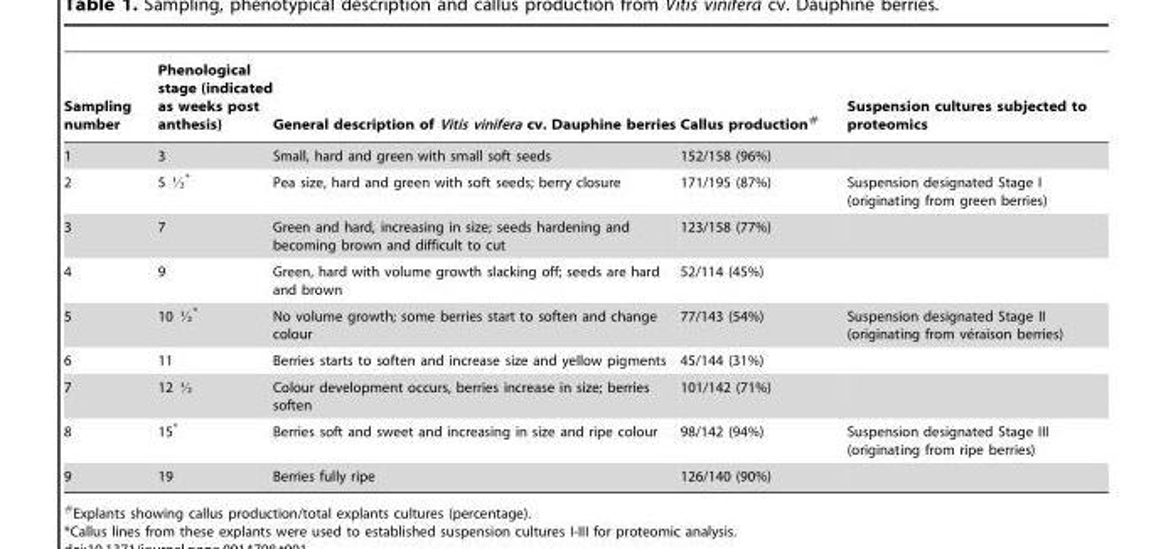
<table><thead><tr><td>Sampling number</td><td>Phenological stage (indicated as weeks post anthesis)</td><td>General description of Vitis vinifera cv. Dauphine berries</td><td>Callus production#</td><td>Suspension cultures subjected to proteomics</td></tr></thead><tbody><tr><td>1</td><td>3</td><td>Small, hard and green with small soft seeds</td><td>152/158 (96%)</td><td></td></tr><tr><td>2</td><td>5 K*</td><td>Pea size, hard and green with soft seeds; berry closure</td><td>171/195 (87%)</td><td>Suspension designated Stage I (originating from green berries)</td></tr><tr><td>3</td><td>7</td><td>Green and hard, increasing in size; seeds hardening and becoming brown and difficult to cut</td><td>123/158 (77%)</td><td></td></tr><tr><td>4</td><td>9</td><td>Green, hard with volume growth slacking off; seeds are hard and brown</td><td>52/114 (45%)</td><td></td></tr><tr><td>5</td><td>10 K*</td><td>No volume growth; some berries start to soften and change colour</td><td>77/143 (54%)</td><td>Suspension designated Stage II (originating from ve´raison berries)</td></tr><tr><td>6</td><td>11</td><td>Berries starts to soften and increase size and yellow pigments</td><td>45/144 (31%)</td><td></td></tr><tr><td>7</td><td>12 K</td><td>Colour development occurs, berries increase in size; berries soften</td><td>101/142 (71%)</td><td></td></tr><tr><td>8</td><td>15*</td><td>Berries soft and sweet and increasing in size and ripe colour</td><td>98/142 (94%)</td><td>Suspension designated Stage III (originating from ripe berries)</td></tr><tr><td>9</td><td>19</td><td>Berries fully ripe</td><td>126/140 (90%)</td><td></td></tr></tbody></table>